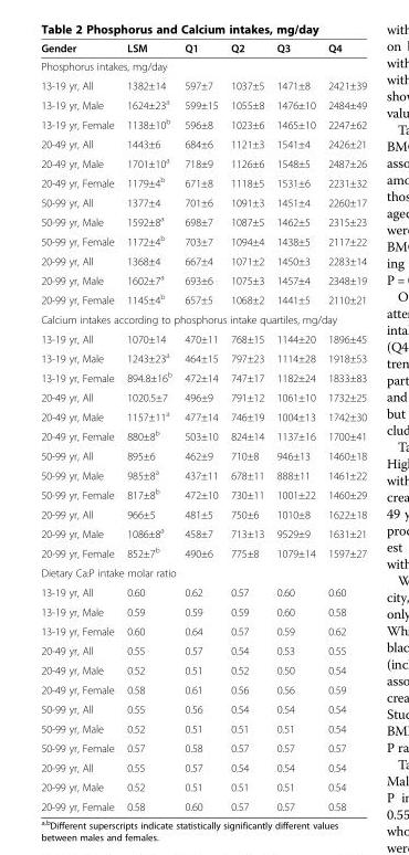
<table><thead><tr><td>Gender</td><td>LSM</td><td>Q1</td><td>Q2</td><td>Q3</td><td>Q4</td></tr></thead><tbody><tr><td colspan="6">Phosphorus intakes, mg/day</td></tr><tr><td>13-19 yr, All</td><td>1382±14</td><td>597±7</td><td>1037±5</td><td>1471±8</td><td>2421±39</td></tr><tr><td>13-19 yr, Male</td><td>1624±23<sup>a</sup></td><td>599±15</td><td>1055±8</td><td>1476±10</td><td>2484±49</td></tr><tr><td>13-19 yr, Female</td><td>1138±10<sup>b</sup></td><td>596±8</td><td>1023±6</td><td>1465±10</td><td>2247±62</td></tr><tr><td>20-49 yr, All</td><td>1443±6</td><td>684±6</td><td>1121±3</td><td>1541±4</td><td>2426±21</td></tr><tr><td>20-49 yr, Male</td><td>1701±10<sup>a</sup></td><td>718±9</td><td>1126±6</td><td>1548±5</td><td>2487±26</td></tr><tr><td>20-49 yr, Female</td><td>1179±4<sup>b</sup></td><td>671±8</td><td>1118±5</td><td>1531±6</td><td>2231±32</td></tr><tr><td>50-99 yr, All</td><td>1377±4</td><td>701±6</td><td>1091±3</td><td>1451±4</td><td>2260±17</td></tr><tr><td>50-99 yr, Male</td><td>1592±8<sup>a</sup></td><td>698±7</td><td>1087±5</td><td>1462±5</td><td>2315±23</td></tr><tr><td>50-99 yr, Female</td><td>1172±4<sup>b</sup></td><td>703±7</td><td>1094±4</td><td>1438±5</td><td>2117±22</td></tr><tr><td>20-99 yr, All</td><td>1368±4</td><td>667±4</td><td>1071±2</td><td>1450±3</td><td>2283±14</td></tr><tr><td>20-99 yr, Male</td><td>1602±7<sup>a</sup></td><td>693±6</td><td>1075±3</td><td>1457±4</td><td>2348±19</td></tr><tr><td>20-99 yr, Female</td><td>1145±4<sup>b</sup></td><td>657±5</td><td>1068±2</td><td>1441±5</td><td>2110±21</td></tr><tr><td colspan="6">Calcium intakes according to phosphorus intake quartiles, mg/day</td></tr><tr><td>13-19 yr, All</td><td>1070±14</td><td>470±11</td><td>768±15</td><td>1144±20</td><td>1896±45</td></tr><tr><td>13-19 yr, Male</td><td>1243±23<sup>a</sup></td><td>464±15</td><td>797±23</td><td>1114±28</td><td>1918±53</td></tr><tr><td>13-19 yr, Female</td><td>894.8±16<sup>b</sup></td><td>472±14</td><td>747±17</td><td>1182±24</td><td>1833±83</td></tr><tr><td>20-49 yr, All</td><td>1020.5±7</td><td>496±9</td><td>791±12</td><td>1061±10</td><td>1732±25</td></tr><tr><td>20-49 yr, Male</td><td>1157±11<sup>a</sup></td><td>477±14</td><td>746±19</td><td>1004±13</td><td>1742±30</td></tr><tr><td>20-49 yr, Female</td><td>880±8<sup>b</sup></td><td>503±10</td><td>824±14</td><td>1137±16</td><td>1700±41</td></tr><tr><td>50-99 yr, All</td><td>895±6</td><td>462±9</td><td>710±8</td><td>946±13</td><td>1460±18</td></tr><tr><td>50-99 yr, Male</td><td>985±8<sup>a</sup></td><td>437±11</td><td>678±11</td><td>888±11</td><td>1461±22</td></tr><tr><td>50-99 yr, Female</td><td>817±8<sup>b</sup></td><td>472±10</td><td>730±11</td><td>1001±22</td><td>1460±29</td></tr><tr><td>20-99 yr, All</td><td>966±5</td><td>481±5</td><td>750±6</td><td>1010±8</td><td>1622±18</td></tr><tr><td>20-99 yr, Male</td><td>1086±8<sup>a</sup></td><td>458±7</td><td>713±13</td><td>9529±9</td><td>1631±21</td></tr><tr><td>20-99 yr, Female</td><td>852±7<sup>b</sup></td><td>490±6</td><td>775±8</td><td>1079±14</td><td>1597±27</td></tr><tr><td colspan="6">Dietary Ca:P intake molar ratio</td></tr><tr><td>13-19 yr, All</td><td>0.60</td><td>0.62</td><td>0.57</td><td>0.60</td><td>0.60</td></tr><tr><td>13-19 yr, Male</td><td>0.59</td><td>0.59</td><td>0.59</td><td>0.60</td><td>0.58</td></tr><tr><td>13-19 yr, Female</td><td>0.60</td><td>0.64</td><td>0.57</td><td>0.59</td><td>0.62</td></tr><tr><td>20-49 yr, All</td><td>0.55</td><td>0.57</td><td>0.54</td><td>0.53</td><td>0.55</td></tr><tr><td>20-49 yr, Male</td><td>0.52</td><td>0.51</td><td>0.52</td><td>0.50</td><td>0.54</td></tr><tr><td>20-49 yr, Female</td><td>0.58</td><td>0.61</td><td>0.56</td><td>0.56</td><td>0.59</td></tr><tr><td>50-99 yr, All</td><td>0.55</td><td>0.56</td><td>0.54</td><td>0.54</td><td>0.54</td></tr><tr><td>50-99 yr, Male</td><td>0.52</td><td>0.51</td><td>0.51</td><td>0.51</td><td>0.54</td></tr><tr><td>50-99 yr, Female</td><td>0.57</td><td>0.58</td><td>0.57</td><td>0.57</td><td>0.57</td></tr><tr><td>20-99 yr, All</td><td>0.55</td><td>0.57</td><td>0.54</td><td>0.54</td><td>0.54</td></tr><tr><td>20-99 yr, Male</td><td>0.52</td><td>0.51</td><td>0.51</td><td>0.51</td><td>0.54</td></tr><tr><td>20-99 yr, Female</td><td>0.58</td><td>0.60</td><td>0.57</td><td>0.57</td><td>0.58</td></tr></tbody></table>